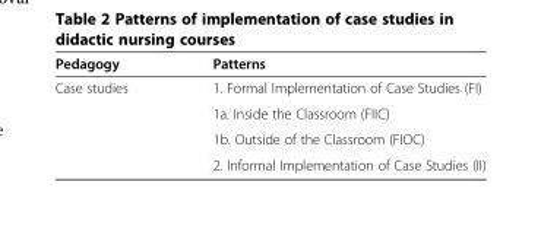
<table><thead><tr><td>Pedagogy</td><td>Patterns</td></tr></thead><tbody><tr><td rowspan="4">Case studies</td><td>1. Formal Implementation of Case Studies (FI)</td></tr><tr><td>1a. Inside the Classroom (FIIC)</td></tr><tr><td>1b. Outside of the Classroom (FIOC)</td></tr><tr><td>2. Informal Implementation of Case Studies (II)</td></tr></tbody></table>